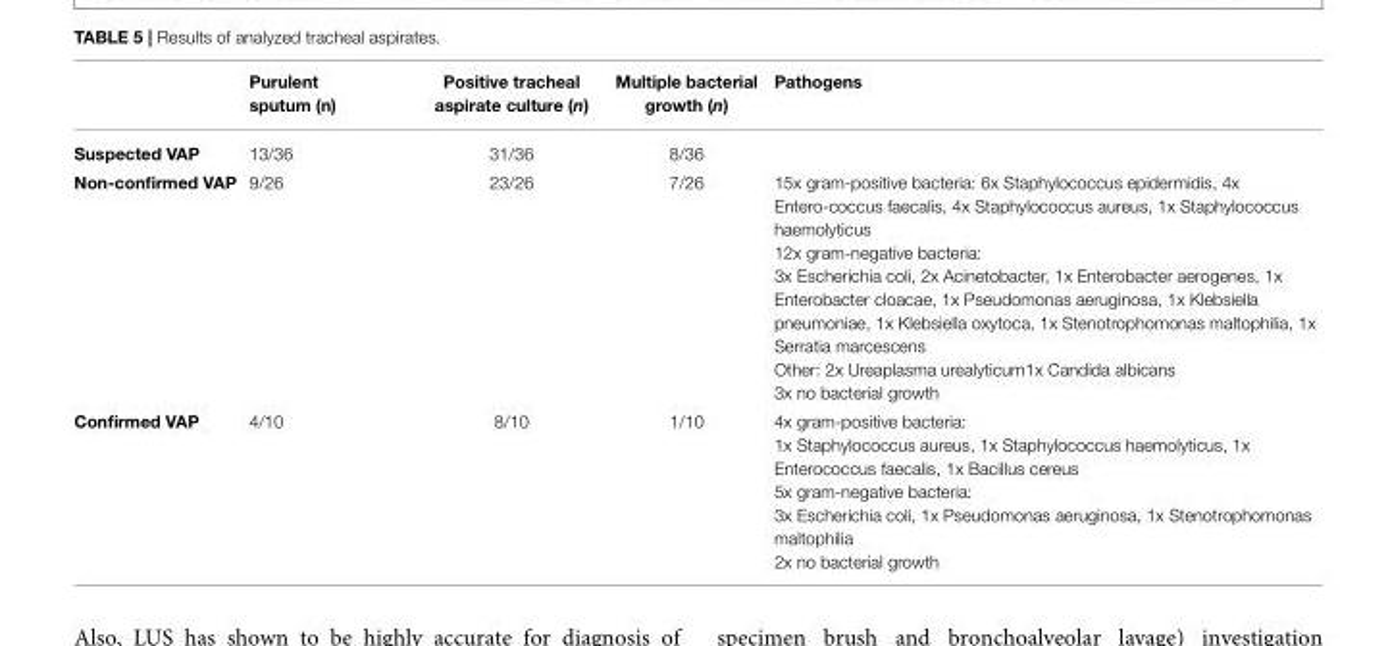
<table><thead><tr><td></td><td>Purulent sputum (n)</td><td>Positive tracheal aspirate culture (n)</td><td>Multiple bacterial growth (n)</td><td>Pathogens</td></tr></thead><tbody><tr><td>Suspected VAP</td><td>13/36</td><td>31/36</td><td>8/36</td><td></td></tr><tr><td>Non-confirmed VAP</td><td>9/26</td><td>23/26</td><td>7/26</td><td>15x gram-positive bacteria: 6x Staphylococcus epidermidis, 4x Entero-coccus faecalis, 4x Staphylococcus aureus, 1x Staphylococcus haemolyticus 12x gram-negative bacteria: 3x Escherichia coli, 2x Acinetobacter, 1x Enterobacter aerogenes, 1x Enterobacter cloacae, 1x Pseudomonas aeruginosa, 1x Klebsiella pneumoniae, 1x Klebsiella oxytoca, 1x Stenotrophomonas maltophilia, 1x Serratia marcescens Other: 2x Ureaplasma urealyticum1x Candida albicans 3x no bacterial growth</td></tr><tr><td>Confirmed VAP</td><td>4/10</td><td>8/10</td><td>1/10</td><td>4x gram-positive bacteria: 1x Staphylococcus aureus, 1x Staphylococcus haemolyticus, 1x Enterococcus faecalis, 1x Bacillus cereus 5x gram-negative bacteria: 3x Escherichia coli, 1x Pseudomonas aeruginosa, 1x Stenotrophomonas maltophilia 2x no bacterial growth</td></tr></tbody></table>